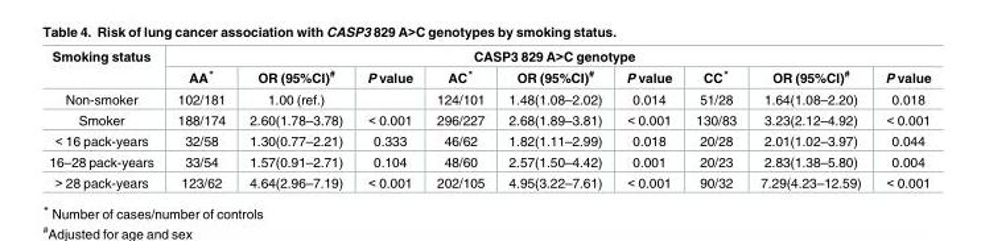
<table><thead><tr><td rowspan="2">Smoking status</td><td colspan="9">CASP3 829 A&gt;C genotype</td></tr><tr><td>AA*</td><td>OR (95%CI)<sup>#</sup></td><td>P value</td><td>AC*</td><td>OR (95%CI)<sup>#</sup></td><td>P value</td><td>CC*</td><td>OR (95%CI)<sup>#</sup></td><td>P value</td></tr></thead><tbody><tr><td>Non-smoker</td><td>102/181</td><td>1.00 (ref.)</td><td></td><td>124/101</td><td>1.48(1.08–2.02)</td><td>0.014</td><td>51/28</td><td>1.64(1.08–2.20)</td><td>0.018</td></tr><tr><td>Smoker</td><td>188/174</td><td>2.60(1.78–3.78)</td><td>&lt; 0.001</td><td>296/227</td><td>2.68(1.89–3.81)</td><td>&lt; 0.001</td><td>130/83</td><td>3.23(2.12–4.92)</td><td>&lt; 0.001</td></tr><tr><td>&lt; 16 pack-years</td><td>32/58</td><td>1.30(0.77–2.21)</td><td>0.333</td><td>46/62</td><td>1.82(1.11–2.99)</td><td>0.018</td><td>20/28</td><td>2.01(1.02–3.97)</td><td>0.044</td></tr><tr><td>16–28 pack-years</td><td>33/54</td><td>1.57(0.91–2.71)</td><td>0.104</td><td>48/60</td><td>2.57(1.50–4.42)</td><td>0.001</td><td>20/23</td><td>2.83(1.38–5.80)</td><td>0.004</td></tr><tr><td>&gt; 28 pack-years</td><td>123/62</td><td>4.64(2.96–7.19)</td><td>&lt; 0.001</td><td>202/105</td><td>4.95(3.22–7.61)</td><td>&lt; 0.001</td><td>90/32</td><td>7.29(4.23–12.59)</td><td>&lt; 0.001</td></tr></tbody></table>